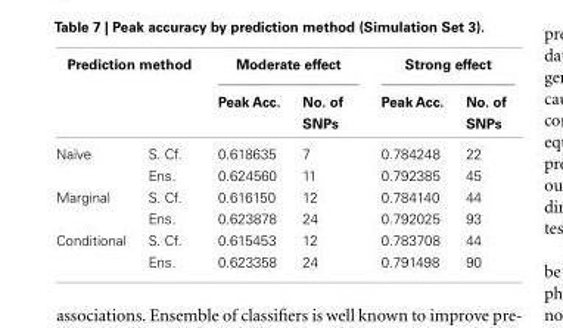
<table><thead><tr><td colspan="2">Prediction method</td><td colspan="2">Moderate effect</td><td colspan="2">Strong effect</td></tr><tr><td></td><td></td><td>Peak Acc.</td><td>No. of SNPs</td><td>Peak Acc.</td><td>No. of SNPs</td></tr></thead><tbody><tr><td rowspan="2">Naïve</td><td>S. Cf.</td><td>0.618635</td><td>7</td><td>0.784248</td><td>22</td></tr><tr><td>Ens.</td><td>0.624560</td><td>11</td><td>0.792385</td><td>45</td></tr><tr><td rowspan="2">Marginal</td><td>S. Cf.</td><td>0.616150</td><td>12</td><td>0.784140</td><td>44</td></tr><tr><td>Ens.</td><td>0.623878</td><td>24</td><td>0.792025</td><td>93</td></tr><tr><td rowspan="2">Conditional</td><td>S. Cf.</td><td>0.615453</td><td>12</td><td>0.783708</td><td>44</td></tr><tr><td>Ens.</td><td>0.623358</td><td>24</td><td>0.791498</td><td>90</td></tr></tbody></table>